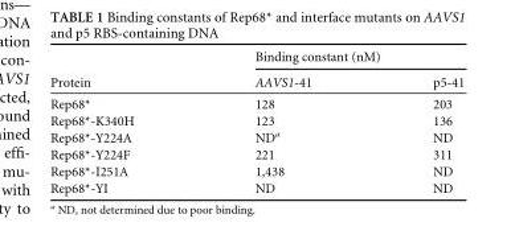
<table><thead><tr><td rowspan="2">Protein</td><td colspan="2">Binding constant (nM)</td></tr><tr><td>AAVS1-41</td><td>p5-41</td></tr></thead><tbody><tr><td>Rep68*</td><td>128</td><td>203</td></tr><tr><td>Rep68*-K340H</td><td>123</td><td>136</td></tr><tr><td>Rep68*-Y224A</td><td>ND<sup>a</sup></td><td>ND</td></tr><tr><td>Rep68*-Y224F</td><td>221</td><td>311</td></tr><tr><td>Rep68*-I251A</td><td>1,438</td><td>ND</td></tr><tr><td>Rep68*-YI</td><td>ND</td><td>ND</td></tr></tbody></table>